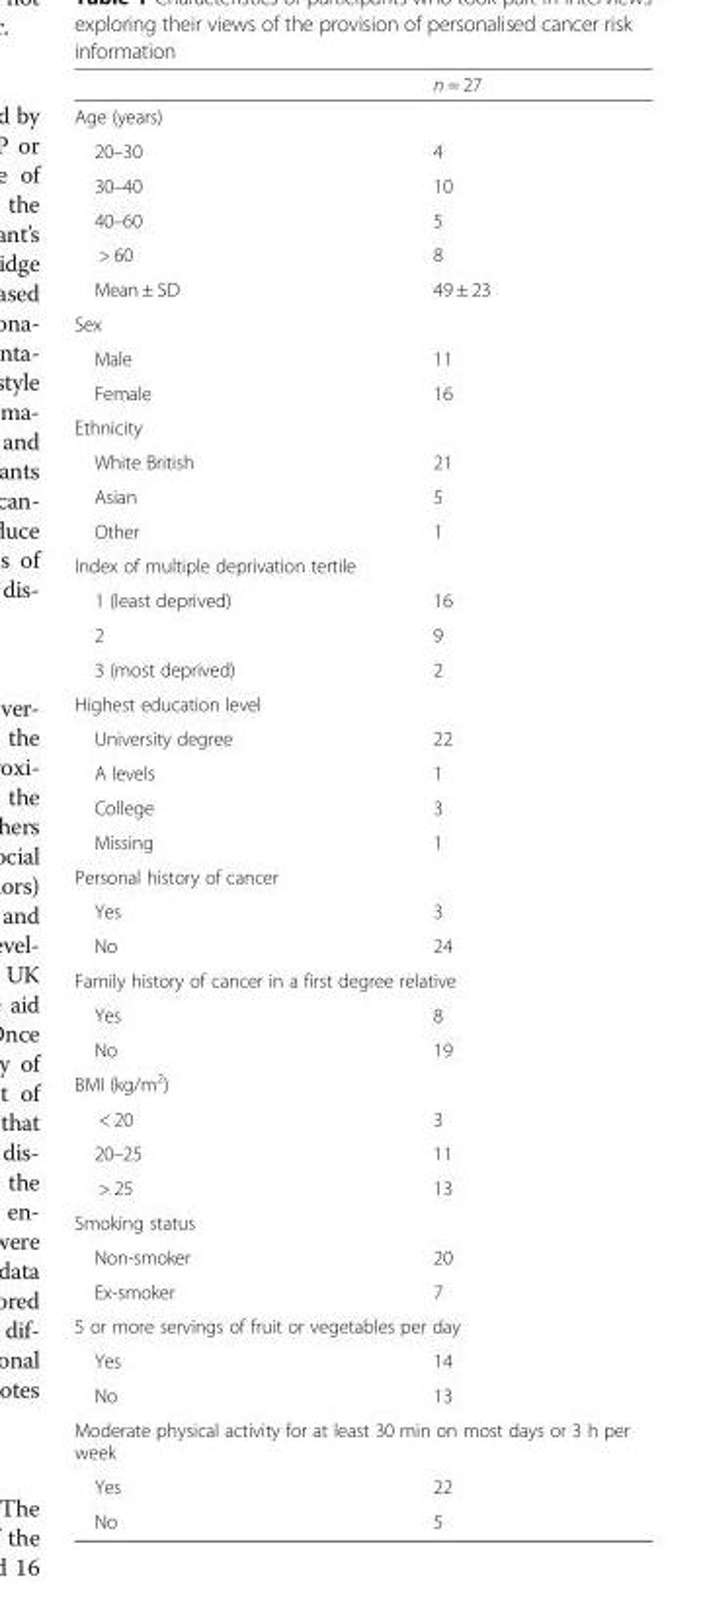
<table><thead><tr><td></td><td>n = 27</td></tr></thead><tbody><tr><td colspan="2">Age (years)</td></tr><tr><td>20–30</td><td>4</td></tr><tr><td>30–40</td><td>10</td></tr><tr><td>40–60</td><td>5</td></tr><tr><td>&gt; 60</td><td>8</td></tr><tr><td>Mean ± SD</td><td>49 ± 23</td></tr><tr><td colspan="2">Sex</td></tr><tr><td>Male</td><td>11</td></tr><tr><td>Female</td><td>16</td></tr><tr><td colspan="2">Ethnicity</td></tr><tr><td>White British</td><td>21</td></tr><tr><td>Asian</td><td>5</td></tr><tr><td>Other</td><td>1</td></tr><tr><td colspan="2">Index of multiple deprivation tertile</td></tr><tr><td>1 (least deprived)</td><td>16</td></tr><tr><td>2</td><td>9</td></tr><tr><td>3 (most deprived)</td><td>2</td></tr><tr><td colspan="2">Highest education level</td></tr><tr><td>University degree</td><td>22</td></tr><tr><td>A levels</td><td>1</td></tr><tr><td>College</td><td>3</td></tr><tr><td>Missing</td><td>1</td></tr><tr><td colspan="2">Personal history of cancer</td></tr><tr><td>Yes</td><td>3</td></tr><tr><td>No</td><td>24</td></tr><tr><td colspan="2">Family history of cancer in a first degree relative</td></tr><tr><td>Yes</td><td>8</td></tr><tr><td>No</td><td>19</td></tr><tr><td colspan="2">BMI (kg/m<sup>2</sup>)</td></tr><tr><td>&lt; 20</td><td>3</td></tr><tr><td>20–25</td><td>11</td></tr><tr><td>&gt; 25</td><td>13</td></tr><tr><td colspan="2">Smoking status</td></tr><tr><td>Non-smoker</td><td>20</td></tr><tr><td>Ex-smoker</td><td>7</td></tr><tr><td colspan="2">5 or more servings of fruit or vegetables per day</td></tr><tr><td>Yes</td><td>14</td></tr><tr><td>No</td><td>13</td></tr><tr><td colspan="2">Moderate physical activity for at least 30 min on most days or 3 h per week</td></tr><tr><td>Yes</td><td>22</td></tr><tr><td>No</td><td>5</td></tr></tbody></table>